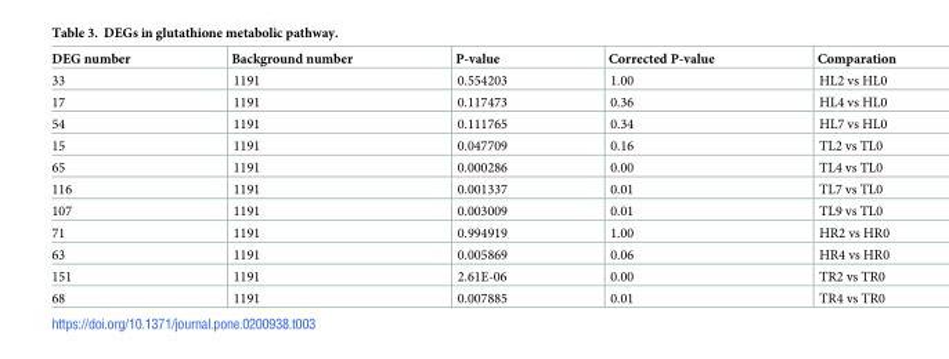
<table><thead><tr><td>DEG number</td><td>Background number</td><td>P-value</td><td>Corrected P-value</td><td>Comparation</td></tr></thead><tbody><tr><td>33</td><td>1191</td><td>0.554203</td><td>1.00</td><td>HL2 vs HL0</td></tr><tr><td>17</td><td>1191</td><td>0.117473</td><td>0.36</td><td>HL4 vs HL0</td></tr><tr><td>54</td><td>1191</td><td>0.111765</td><td>0.34</td><td>HL7 vs HL0</td></tr><tr><td>15</td><td>1191</td><td>0.047709</td><td>0.16</td><td>TL2 vs TL0</td></tr><tr><td>65</td><td>1191</td><td>0.000286</td><td>0.00</td><td>TL4 vs TL0</td></tr><tr><td>116</td><td>1191</td><td>0.001337</td><td>0.01</td><td>TL7 vs TL0</td></tr><tr><td>107</td><td>1191</td><td>0.003009</td><td>0.01</td><td>TL9 vs TL0</td></tr><tr><td>71</td><td>1191</td><td>0.994919</td><td>1.00</td><td>HR2 vs HR0</td></tr><tr><td>63</td><td>1191</td><td>0.005869</td><td>0.06</td><td>HR4 vs HR0</td></tr><tr><td>151</td><td>1191</td><td>2.61E-06</td><td>0.00</td><td>TR2 vs TR0</td></tr><tr><td>68</td><td>1191</td><td>0.007885</td><td>0.01</td><td>TR4 vs TR0</td></tr></tbody></table>